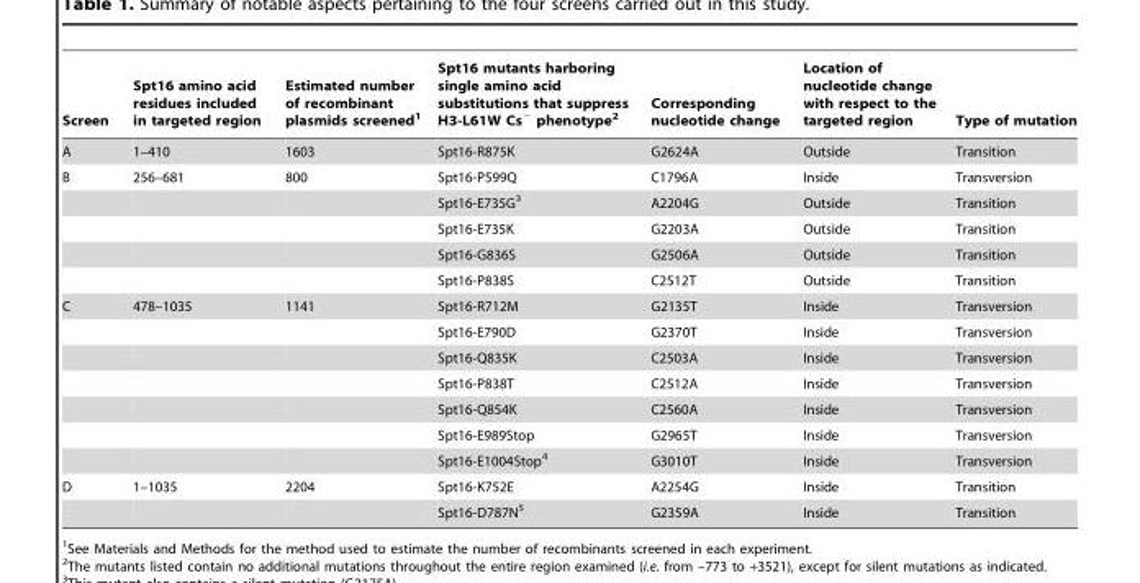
<table><thead><tr><td>Screen</td><td>Spt16 amino acid residues included in targeted region</td><td>Estimated number of recombinant plasmids screened<sup>1</sup></td><td>Spt16 mutants harboring single amino acid substitutions that suppress H3-L61W Cs<sup>−</sup> phenotype<sup>2</sup></td><td>Corresponding nucleotide change</td><td>Location of nucleotide change with respect to the targeted region</td><td>Type of mutation</td></tr></thead><tbody><tr><td>A</td><td>1–410</td><td>1603</td><td>Spt16-R875K</td><td>G2624A</td><td>Outside</td><td>Transition</td></tr><tr><td rowspan="5">B</td><td>256–681</td><td>800</td><td>Spt16-P599Q</td><td>C1796A</td><td>Inside</td><td>Transversion</td></tr><tr><td></td><td></td><td>Spt16-E735G<sup>3</sup></td><td>A2204G</td><td>Outside</td><td>Transition</td></tr><tr><td></td><td></td><td>Spt16-E735K</td><td>G2203A</td><td>Outside</td><td>Transition</td></tr><tr><td></td><td></td><td>Spt16-G836S</td><td>G2506A</td><td>Outside</td><td>Transition</td></tr><tr><td></td><td></td><td>Spt16-P838S</td><td>C2512T</td><td>Outside</td><td>Transition</td></tr><tr><td rowspan="7">C</td><td>478–1035</td><td>1141</td><td>Spt16-R712M</td><td>G2135T</td><td>Inside</td><td>Transversion</td></tr><tr><td></td><td></td><td>Spt16-E790D</td><td>G2370T</td><td>Inside</td><td>Transversion</td></tr><tr><td></td><td></td><td>Spt16-Q835K</td><td>C2503A</td><td>Inside</td><td>Transversion</td></tr><tr><td></td><td></td><td>Spt16-P838T</td><td>C2512A</td><td>Inside</td><td>Transversion</td></tr><tr><td></td><td></td><td>Spt16-Q854K</td><td>C2560A</td><td>Inside</td><td>Transversion</td></tr><tr><td></td><td></td><td>Spt16-E989Stop</td><td>G2965T</td><td>Inside</td><td>Transversion</td></tr><tr><td></td><td></td><td>Spt16-E1004Stop<sup>4</sup></td><td>G3010T</td><td>Inside</td><td>Transversion</td></tr><tr><td rowspan="2">D</td><td>1–1035</td><td>2204</td><td>Spt16-K752E</td><td>A2254G</td><td>Inside</td><td>Transition</td></tr><tr><td></td><td></td><td>Spt16-D787N<sup>5</sup></td><td>G2359A</td><td>Inside</td><td>Transition</td></tr></tbody></table>